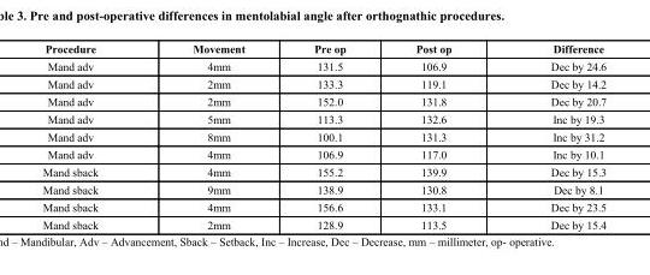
<table><thead><tr><td>Procedure</td><td>Movement</td><td>Pre op</td><td>Post op</td><td>Difference</td></tr></thead><tbody><tr><td>Mand adv</td><td>4mm</td><td>131.5</td><td>106.9</td><td>Dec by 24.6</td></tr><tr><td>Mand adv</td><td>2mm</td><td>133.3</td><td>119.1</td><td>Dec by 14.2</td></tr><tr><td>Mand adv</td><td>2mm</td><td>152.0</td><td>131.8</td><td>Dec by 20.7</td></tr><tr><td>Mand adv</td><td>5mm</td><td>113.3</td><td>132.6</td><td>Inc by 19.3</td></tr><tr><td>Mand adv</td><td>8mm</td><td>100.1</td><td>131.3</td><td>Inc by 31.2</td></tr><tr><td>Mand adv</td><td>4mm</td><td>106.9</td><td>117.0</td><td>Inc by 10.1</td></tr><tr><td>Mand sback</td><td>4mm</td><td>155.2</td><td>139.9</td><td>Dec by 15.3</td></tr><tr><td>Mand sback</td><td>9mm</td><td>138.9</td><td>130.8</td><td>Dec by 8.1</td></tr><tr><td>Mand sback</td><td>4mm</td><td>156.6</td><td>133.1</td><td>Dec by 23.5</td></tr><tr><td>Mand sback</td><td>2mm</td><td>128.9</td><td>113.5</td><td>Dec by 15.4</td></tr></tbody></table>